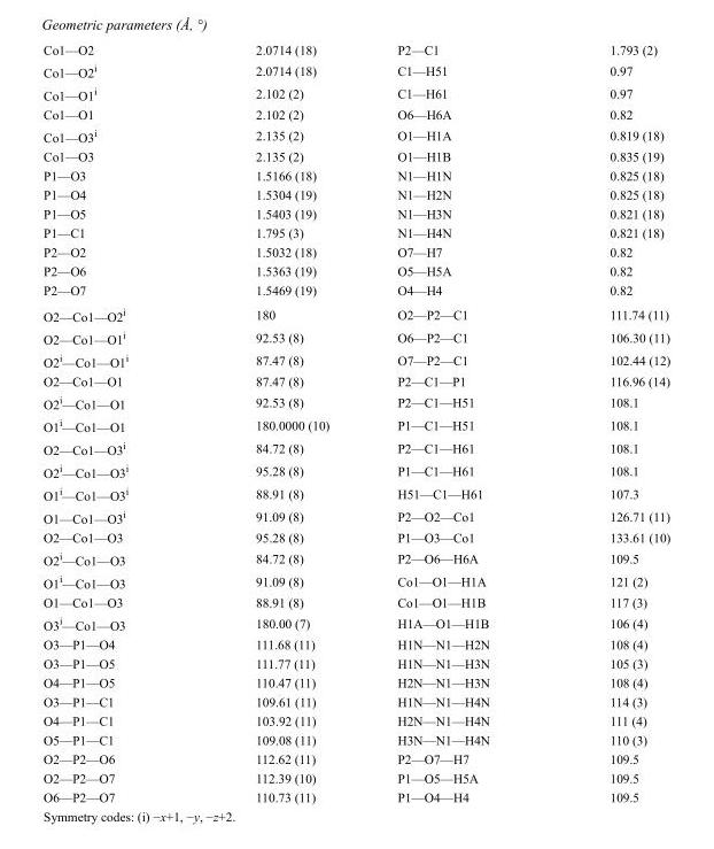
<table><tbody><tr><td>Co1—O2</td><td>2.0714 (18)</td><td>P2—C1</td><td>1.793 (2)</td></tr><tr><td>Co1—O2<sup>i</sup></td><td>2.0714 (18)</td><td>C1—H51</td><td>0.97</td></tr><tr><td>Co1—O1<sup>i</sup></td><td>2.102 (2)</td><td>C1—H61</td><td>0.97</td></tr><tr><td>Co1—O1</td><td>2.102 (2)</td><td>O6—H6A</td><td>0.82</td></tr><tr><td>Co1—O3<sup>i</sup></td><td>2.135 (2)</td><td>O1—H1A</td><td>0.819 (18)</td></tr><tr><td>Co1—O3</td><td>2.135 (2)</td><td>O1—H1B</td><td>0.835 (19)</td></tr><tr><td>P1—O3</td><td>1.5166 (18)</td><td>N1—H1N</td><td>0.825 (18)</td></tr><tr><td>P1—O4</td><td>1.5304 (19)</td><td>N1—H2N</td><td>0.825 (18)</td></tr><tr><td>P1—O5</td><td>1.5403 (19)</td><td>N1—H3N</td><td>0.821 (18)</td></tr><tr><td>P1—C1</td><td>1.795 (3)</td><td>N1—H4N</td><td>0.821 (18)</td></tr><tr><td>P2—O2</td><td>1.5032 (18)</td><td>O7—H7</td><td>0.82</td></tr><tr><td>P2—O6</td><td>1.5363 (19)</td><td>O5—H5A</td><td>0.82</td></tr><tr><td>P2—O7</td><td>1.5469 (19)</td><td>O4—H4</td><td>0.82</td></tr><tr><td>O2—Co1—O2<sup>i</sup></td><td>180</td><td>O2—P2—C1</td><td>111.74 (11)</td></tr><tr><td>O2—Co1—O1<sup>i</sup></td><td>92.53 (8)</td><td>O6—P2—C1</td><td>106.30 (11)</td></tr><tr><td>O2<sup>i</sup>—Co1—O1<sup>i</sup></td><td>87.47 (8)</td><td>O7—P2—C1</td><td>102.44 (12)</td></tr><tr><td>O2—Co1—O1</td><td>87.47 (8)</td><td>P2—C1—P1</td><td>116.96 (14)</td></tr><tr><td>O2<sup>i</sup>—Co1—O1</td><td>92.53 (8)</td><td>P2—C1—H51</td><td>108.1</td></tr><tr><td>O1<sup>i</sup>—Co1—O1</td><td>180.0000 (10)</td><td>P1—C1—H51</td><td>108.1</td></tr><tr><td>O2—Co1—O3<sup>i</sup></td><td>84.72 (8)</td><td>P2—C1—H61</td><td>108.1</td></tr><tr><td>O2<sup>i</sup>—Co1—O3<sup>i</sup></td><td>95.28 (8)</td><td>P1—C1—H61</td><td>108.1</td></tr><tr><td>O1<sup>i</sup>—Co1—O3<sup>i</sup></td><td>88.91 (8)</td><td>H51—C1—H61</td><td>107.3</td></tr><tr><td>O1—Co1—O3<sup>i</sup></td><td>91.09 (8)</td><td>P2—O2—Co1</td><td>126.71 (11)</td></tr><tr><td>O2—Co1—O3</td><td>95.28 (8)</td><td>P1—O3—Co1</td><td>133.61 (10)</td></tr><tr><td>O2<sup>i</sup>—Co1—O3</td><td>84.72 (8)</td><td>P2—O6—H6A</td><td>109.5</td></tr><tr><td>O1<sup>i</sup>—Co1—O3</td><td>91.09 (8)</td><td>Co1—O1—H1A</td><td>121 (2)</td></tr><tr><td>O1—Co1—O3</td><td>88.91 (8)</td><td>Co1—O1—H1B</td><td>117 (3)</td></tr><tr><td>O3<sup>i</sup>—Co1—O3</td><td>180.00 (7)</td><td>H1A—O1—H1B</td><td>106 (4)</td></tr><tr><td>O3—P1—O4</td><td>111.68 (11)</td><td>H1N—N1—H2N</td><td>108 (4)</td></tr><tr><td>O3—P1—O5</td><td>111.77 (11)</td><td>H1N—N1—H3N</td><td>105 (3)</td></tr><tr><td>O4—P1—O5</td><td>110.47 (11)</td><td>H2N—N1—H3N</td><td>108 (4)</td></tr><tr><td>O3—P1—C1</td><td>109.61 (11)</td><td>H1N—N1—H4N</td><td>114 (3)</td></tr><tr><td>O4—P1—C1</td><td>103.92 (11)</td><td>H2N—N1—H4N</td><td>111 (4)</td></tr><tr><td>O5—P1—C1</td><td>109.08 (11)</td><td>H3N—N1—H4N</td><td>110 (3)</td></tr><tr><td>O2—P2—O6</td><td>112.62 (11)</td><td>P2—O7—H7</td><td>109.5</td></tr><tr><td>O2—P2—O7</td><td>112.39 (10)</td><td>P1—O5—H5A</td><td>109.5</td></tr><tr><td>O6—P2—O7</td><td>110.73 (11)</td><td>P1—O4—H4</td><td>109.5</td></tr></tbody></table>